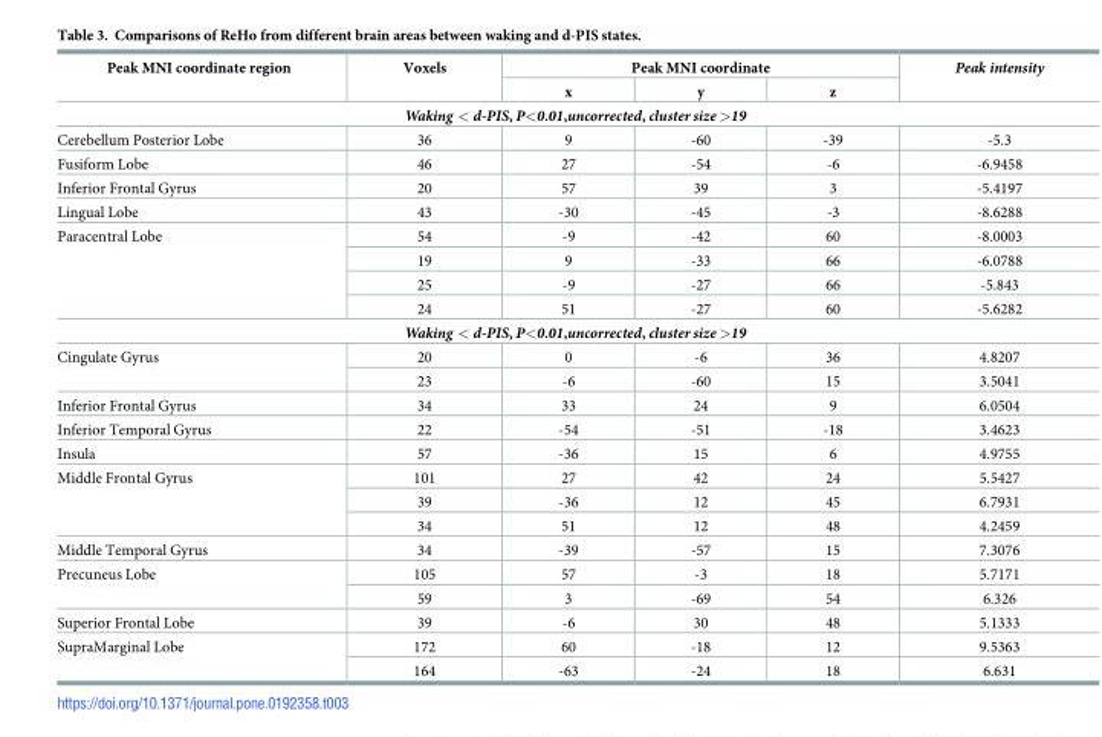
<table><thead><tr><td rowspan="2">Peak MNI coordinate region</td><td rowspan="2">Voxels</td><td colspan="3">Peak MNI coordinate</td><td rowspan="2">Peak intensity</td></tr><tr><td>x</td><td>y</td><td>z</td></tr></thead><tbody><tr><td colspan="6">Waking &lt; d-PIS, P&lt;0.01,uncorrected, cluster size &gt;19</td></tr><tr><td>Cerebellum Posterior Lobe</td><td>36</td><td>9</td><td>-60</td><td>-39</td><td>-5.3</td></tr><tr><td>Fusiform Lobe</td><td>46</td><td>27</td><td>-54</td><td>-6</td><td>-6.9458</td></tr><tr><td>Inferior Frontal Gyrus</td><td>20</td><td>57</td><td>39</td><td>3</td><td>-5.4197</td></tr><tr><td>Lingual Lobe</td><td>43</td><td>-30</td><td>-45</td><td>-3</td><td>-8.6288</td></tr><tr><td rowspan="4">Paracentral Lobe</td><td>54</td><td>-9</td><td>-42</td><td>60</td><td>-8.0003</td></tr><tr><td>19</td><td>9</td><td>-33</td><td>66</td><td>-6.0788</td></tr><tr><td>25</td><td>-9</td><td>-27</td><td>66</td><td>-5.843</td></tr><tr><td>24</td><td>51</td><td>-27</td><td>60</td><td>-5.6282</td></tr><tr><td colspan="6">Waking &lt; d-PIS, P&lt;0.01,uncorrected, cluster size &gt;19</td></tr><tr><td rowspan="2">Cingulate Gyrus</td><td>20</td><td>0</td><td>-6</td><td>36</td><td>4.8207</td></tr><tr><td>23</td><td>-6</td><td>-60</td><td>15</td><td>3.5041</td></tr><tr><td>Inferior Frontal Gyrus</td><td>34</td><td>33</td><td>24</td><td>9</td><td>6.0504</td></tr><tr><td>Inferior Temporal Gyrus</td><td>22</td><td>-54</td><td>-51</td><td>-18</td><td>3.4623</td></tr><tr><td>Insula</td><td>57</td><td>-36</td><td>15</td><td>6</td><td>4.9755</td></tr><tr><td rowspan="3">Middle Frontal Gyrus</td><td>101</td><td>27</td><td>42</td><td>24</td><td>5.5427</td></tr><tr><td>39</td><td>-36</td><td>12</td><td>45</td><td>6.7931</td></tr><tr><td>34</td><td>51</td><td>12</td><td>48</td><td>4.2459</td></tr><tr><td>Middle Temporal Gyrus</td><td>34</td><td>-39</td><td>-57</td><td>15</td><td>7.3076</td></tr><tr><td rowspan="2">Precuneus Lobe</td><td>105</td><td>57</td><td>-3</td><td>18</td><td>5.7171</td></tr><tr><td>59</td><td>3</td><td>-69</td><td>54</td><td>6.326</td></tr><tr><td>Superior Frontal Lobe</td><td>39</td><td>-6</td><td>30</td><td>48</td><td>5.1333</td></tr><tr><td rowspan="2">SupraMarginal Lobe</td><td>172</td><td>60</td><td>-18</td><td>12</td><td>9.5363</td></tr><tr><td>164</td><td>-63</td><td>-24</td><td>18</td><td>6.631</td></tr></tbody></table>